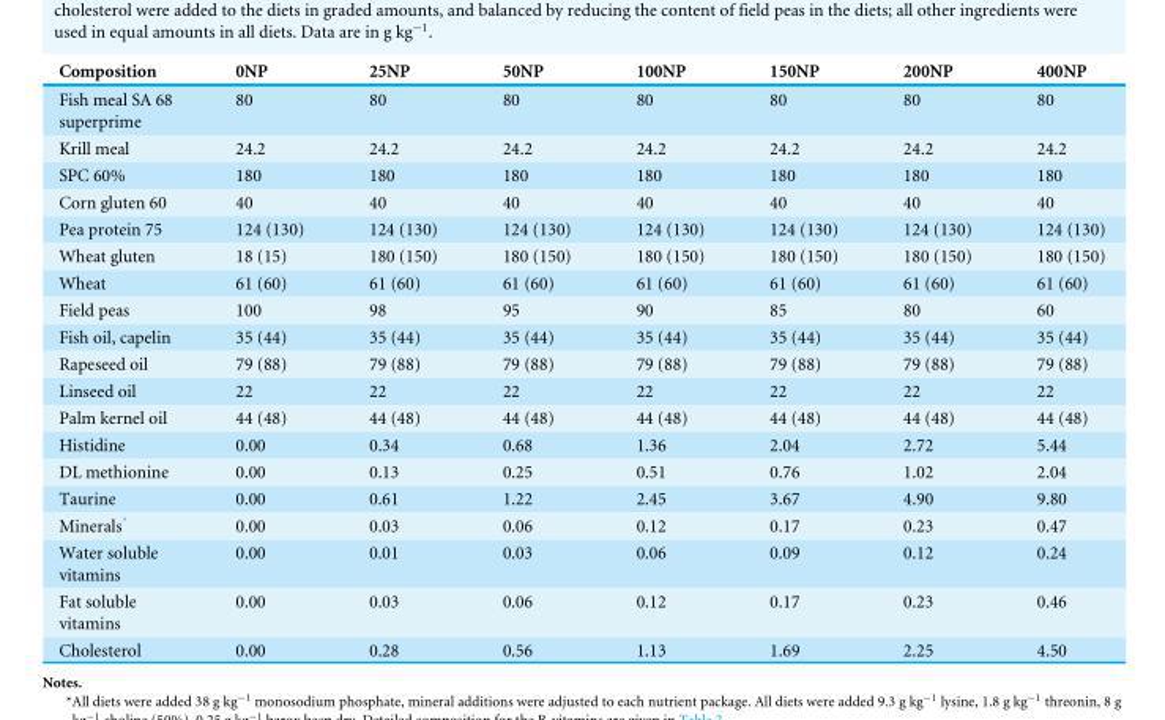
<table><thead><tr><td>Composition</td><td>0NP</td><td>25NP</td><td>50NP</td><td>100NP</td><td>150NP</td><td>200NP</td><td>400NP</td></tr></thead><tbody><tr><td>Fish meal SA 68 superprime</td><td>80</td><td>80</td><td>80</td><td>80</td><td>80</td><td>80</td><td>80</td></tr><tr><td>Krill meal</td><td>24.2</td><td>24.2</td><td>24.2</td><td>24.2</td><td>24.2</td><td>24.2</td><td>24.2</td></tr><tr><td>SPC 60%</td><td>180</td><td>180</td><td>180</td><td>180</td><td>180</td><td>180</td><td>180</td></tr><tr><td>Corn gluten 60</td><td>40</td><td>40</td><td>40</td><td>40</td><td>40</td><td>40</td><td>40</td></tr><tr><td>Pea protein 75</td><td>124 (130)</td><td>124 (130)</td><td>124 (130)</td><td>124 (130)</td><td>124 (130)</td><td>124 (130)</td><td>124 (130)</td></tr><tr><td>Wheat gluten</td><td>18 (15)</td><td>180 (150)</td><td>180 (150)</td><td>180 (150)</td><td>180 (150)</td><td>180 (150)</td><td>180 (150)</td></tr><tr><td>Wheat</td><td>61 (60)</td><td>61 (60)</td><td>61 (60)</td><td>61 (60)</td><td>61 (60)</td><td>61 (60)</td><td>61 (60)</td></tr><tr><td>Field peas</td><td>100</td><td>98</td><td>95</td><td>90</td><td>85</td><td>80</td><td>60</td></tr><tr><td>Fish oil, capelin</td><td>35 (44)</td><td>35 (44)</td><td>35 (44)</td><td>35 (44)</td><td>35 (44)</td><td>35 (44)</td><td>35 (44)</td></tr><tr><td>Rapeseed oil</td><td>79 (88)</td><td>79 (88)</td><td>79 (88)</td><td>79 (88)</td><td>79 (88)</td><td>79 (88)</td><td>79 (88)</td></tr><tr><td>Linseed oil</td><td>22</td><td>22</td><td>22</td><td>22</td><td>22</td><td>22</td><td>22</td></tr><tr><td>Palm kernel oil</td><td>44 (48)</td><td>44 (48)</td><td>44 (48)</td><td>44 (48)</td><td>44 (48)</td><td>44 (48)</td><td>44 (48)</td></tr><tr><td>Histidine</td><td>0.00</td><td>0.34</td><td>0.68</td><td>1.36</td><td>2.04</td><td>2.72</td><td>5.44</td></tr><tr><td>DL methionine</td><td>0.00</td><td>0.13</td><td>0.25</td><td>0.51</td><td>0.76</td><td>1.02</td><td>2.04</td></tr><tr><td>Taurine</td><td>0.00</td><td>0.61</td><td>1.22</td><td>2.45</td><td>3.67</td><td>4.90</td><td>9.80</td></tr><tr><td>Minerals*</td><td>0.00</td><td>0.03</td><td>0.06</td><td>0.12</td><td>0.17</td><td>0.23</td><td>0.47</td></tr><tr><td>Water soluble vitamins</td><td>0.00</td><td>0.01</td><td>0.03</td><td>0.06</td><td>0.09</td><td>0.12</td><td>0.24</td></tr><tr><td>Fat soluble vitamins</td><td>0.00</td><td>0.03</td><td>0.06</td><td>0.12</td><td>0.17</td><td>0.23</td><td>0.46</td></tr><tr><td>Cholesterol</td><td>0.00</td><td>0.28</td><td>0.56</td><td>1.13</td><td>1.69</td><td>2.25</td><td>4.50</td></tr></tbody></table>